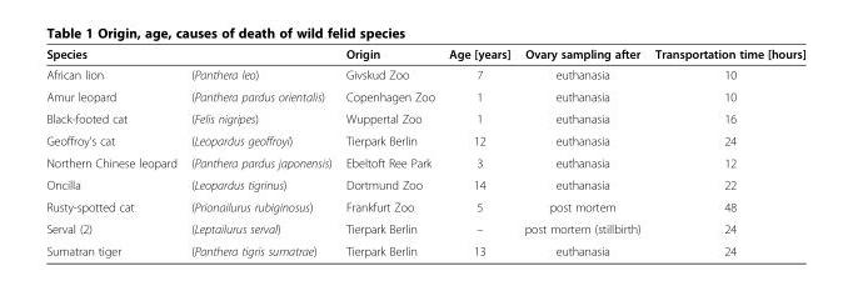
<table><thead><tr><td colspan="2">Species</td><td rowspan="2">Origin Givskud Zoo</td><td rowspan="2">Age [years] 7</td><td rowspan="2">Ovary sampling after euthanasia</td><td rowspan="2">Transportation time [hours] 10</td></tr><tr><td>African lion</td><td>(Panthera leo)</td></tr></thead><tbody><tr><td>Amur leopard</td><td>(Panthera pardus orientalis)</td><td>Copenhagen Zoo</td><td>1</td><td>euthanasia</td><td>10</td></tr><tr><td>Black-footed cat</td><td>(Felis nigripes)</td><td>Wuppertal Zoo</td><td>1</td><td>euthanasia</td><td>16</td></tr><tr><td>Geoffroy&#x27;s cat</td><td>(Leopardus geoffroyi)</td><td>Tierpark Berlin</td><td>12</td><td>euthanasia</td><td>24</td></tr><tr><td>Northern Chinese leopard</td><td>(Panthera pardus japonensis)</td><td>Ebeltoft Ree Park</td><td>3</td><td>euthanasia</td><td>12</td></tr><tr><td>Oncilla</td><td>(Leopardus tigrinus)</td><td>Dortmund Zoo</td><td>14</td><td>euthanasia</td><td>22</td></tr><tr><td>Rusty-spotted cat</td><td>(Prionailurus rubiginosus)</td><td>Frankfurt Zoo</td><td>5</td><td>post mortem</td><td>48</td></tr><tr><td>Serval (2)</td><td>(Leptailurus serval)</td><td>Tierpark Berlin</td><td>–</td><td>post mortem (stillbirth)</td><td>24</td></tr><tr><td>Sumatran tiger</td><td>(Panthera tigris sumatrae)</td><td>Tierpark Berlin</td><td>13</td><td>euthanasia</td><td>24</td></tr></tbody></table>